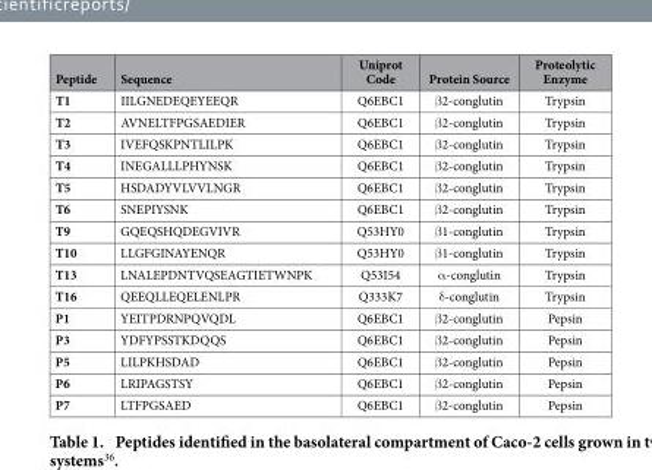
<table><thead><tr><td>Peptide</td><td>Sequence</td><td>Uniprot Code</td><td>Protein Source</td><td>Proteolytic Enzyme</td></tr></thead><tbody><tr><td>T1</td><td>IILGNEDEQEYEEQR</td><td>Q6EBC1</td><td>β 2-conglutin</td><td>Trypsin</td></tr><tr><td>T2</td><td>AVNELTFPGSAEDIER</td><td>Q6EBC1</td><td>β 2-conglutin</td><td>Trypsin</td></tr><tr><td>T3</td><td>IVEFQSKPNTLILPK</td><td>Q6EBC1</td><td>β 2-conglutin</td><td>Trypsin</td></tr><tr><td>T4</td><td>INEGALLLPHYNSK</td><td>Q6EBC1</td><td>β 2-conglutin</td><td>Trypsin</td></tr><tr><td>T5</td><td>HSDADYVLVVLNGR</td><td>Q6EBC1</td><td>β 2-conglutin</td><td>Trypsin</td></tr><tr><td>T6</td><td>SNEPIYSNK</td><td>Q6EBC1</td><td>β 2-conglutin</td><td>Trypsin</td></tr><tr><td>T9</td><td>GQEQSHQDEGVIVR</td><td>Q53HY0</td><td>β 1-conglutin</td><td>Trypsin</td></tr><tr><td>T10</td><td>LLGFGINAYENQR</td><td>Q53HY0</td><td>β 1-conglutin</td><td>Trypsin</td></tr><tr><td>T13</td><td>LNALEPDNTVQSEAGTIETWNPK</td><td>Q53I54</td><td>α -conglutin</td><td>Trypsin</td></tr><tr><td>T16</td><td>QEEQLLEQELENLPR</td><td>Q333K7</td><td>δ -conglutin</td><td>Trypsin</td></tr><tr><td>P1</td><td>YEITPDRNPQVQDL</td><td>Q6EBC1</td><td>β 2-conglutin</td><td>Pepsin</td></tr><tr><td>P3</td><td>YDFYPSSTKDQQS</td><td>Q6EBC1</td><td>β 2-conglutin</td><td>Pepsin</td></tr><tr><td>P5</td><td>LILPKHSDAD</td><td>Q6EBC1</td><td>β 2-conglutin</td><td>Pepsin</td></tr><tr><td>P6</td><td>LRIPAGSTSY</td><td>Q6EBC1</td><td>β 2-conglutin</td><td>Pepsin</td></tr><tr><td>P7</td><td>LTFPGSAED</td><td>Q6EBC1</td><td>β 2-conglutin</td><td>Pepsin</td></tr></tbody></table>